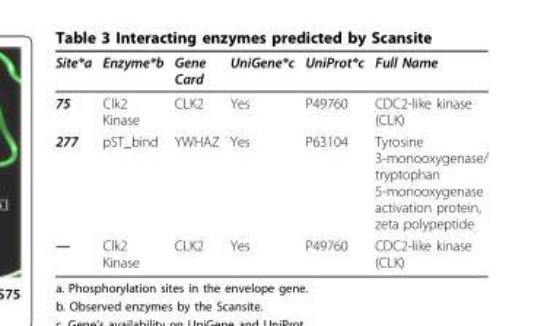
<table><thead><tr><td>Site*a</td><td>Enzyme*b</td><td>Gene Card</td><td>UniGene*c</td><td>UniProt*c</td><td>Full Name</td></tr></thead><tbody><tr><td>75</td><td>Clk2 Kinase</td><td>CLK2</td><td>Yes</td><td>P49760</td><td>CDC2-like kinase (CLK)</td></tr><tr><td>277</td><td>pST_bind</td><td>YWHAZ</td><td>Yes</td><td>P63104</td><td>Tyrosine 3-monooxygenase/ tryptophan 5-monooxygenase activation protein, zeta polypeptide</td></tr><tr><td>—</td><td>Clk2 Kinase</td><td>CLK2</td><td>Yes</td><td>P49760</td><td>CDC2-like kinase (CLK)</td></tr></tbody></table>